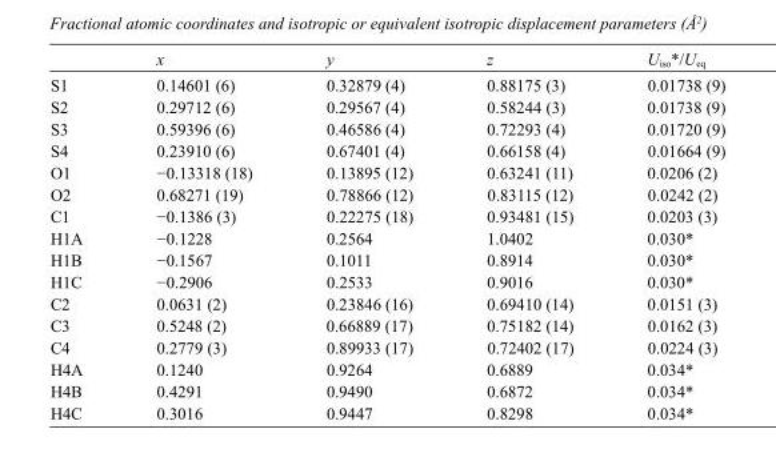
<table><thead><tr><td></td><td>x</td><td>y</td><td>z</td><td>U<sub>iso</sub>*/U<sub>eq</sub></td></tr></thead><tbody><tr><td>S1</td><td>0.14601 (6)</td><td>0.32879 (4)</td><td>0.88175 (3)</td><td>0.01738 (9)</td></tr><tr><td>S2</td><td>0.29712 (6)</td><td>0.29567 (4)</td><td>0.58244 (3)</td><td>0.01738 (9)</td></tr><tr><td>S3</td><td>0.59396 (6)</td><td>0.46586 (4)</td><td>0.72293 (4)</td><td>0.01720 (9)</td></tr><tr><td>S4</td><td>0.23910 (6)</td><td>0.67401 (4)</td><td>0.66158 (4)</td><td>0.01664 (9)</td></tr><tr><td>O1</td><td>−0.13318 (18)</td><td>0.13895 (12)</td><td>0.63241 (11)</td><td>0.0206 (2)</td></tr><tr><td>O2</td><td>0.68271 (19)</td><td>0.78866 (12)</td><td>0.83115 (12)</td><td>0.0242 (2)</td></tr><tr><td>C1</td><td>−0.1386 (3)</td><td>0.22275 (18)</td><td>0.93481 (15)</td><td>0.0203 (3)</td></tr><tr><td>H1A</td><td>−0.1228</td><td>0.2564</td><td>1.0402</td><td>0.030*</td></tr><tr><td>H1B</td><td>−0.1567</td><td>0.1011</td><td>0.8914</td><td>0.030*</td></tr><tr><td>H1C</td><td>−0.2906</td><td>0.2533</td><td>0.9016</td><td>0.030*</td></tr><tr><td>C2</td><td>0.0631 (2)</td><td>0.23846 (16)</td><td>0.69410 (14)</td><td>0.0151 (3)</td></tr><tr><td>C3</td><td>0.5248 (2)</td><td>0.66889 (17)</td><td>0.75182 (14)</td><td>0.0162 (3)</td></tr><tr><td>C4</td><td>0.2779 (3)</td><td>0.89933 (17)</td><td>0.72402 (17)</td><td>0.0224 (3)</td></tr><tr><td>H4A</td><td>0.1240</td><td>0.9264</td><td>0.6889</td><td>0.034*</td></tr><tr><td>H4B</td><td>0.4291</td><td>0.9490</td><td>0.6872</td><td>0.034*</td></tr><tr><td>H4C</td><td>0.3016</td><td>0.9447</td><td>0.8298</td><td>0.034*</td></tr></tbody></table>